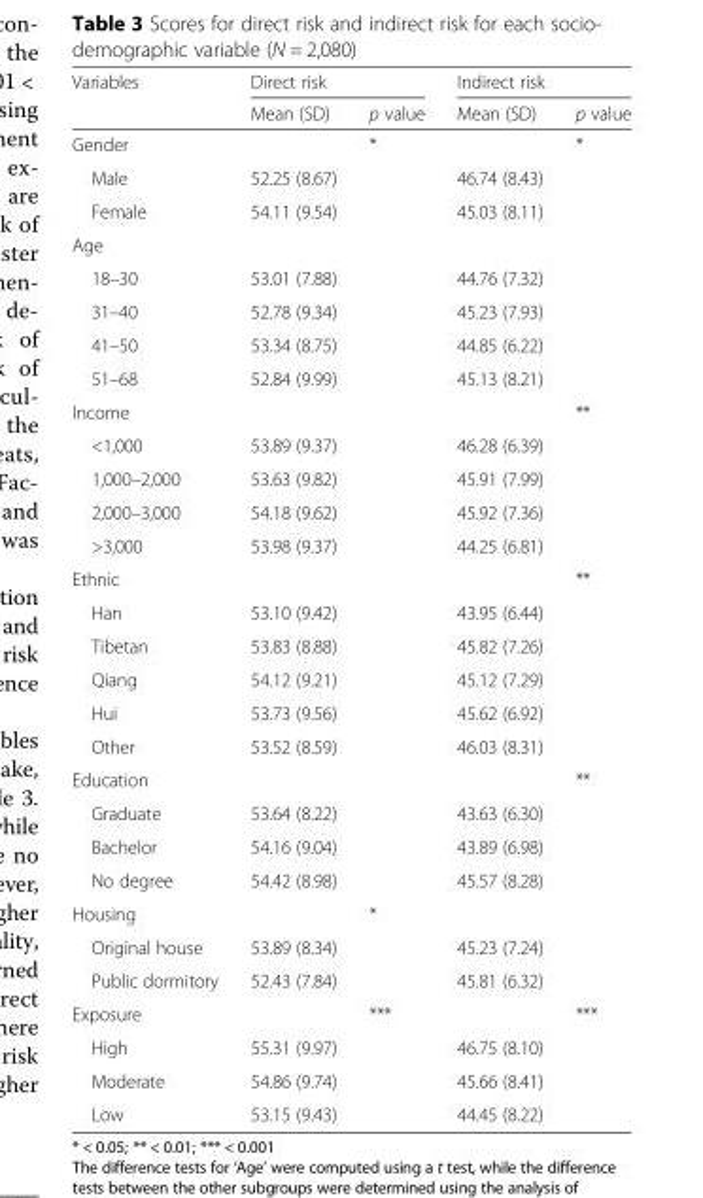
<table><thead><tr><td rowspan="2">Variables</td><td colspan="2">Direct risk</td><td colspan="2">Indirect risk</td></tr><tr><td>Mean (SD)</td><td>p value</td><td>Mean (SD)</td><td>p value</td></tr></thead><tbody><tr><td>Gender</td><td></td><td>*</td><td></td><td>*</td></tr><tr><td>Male</td><td>52.25 (8.67)</td><td></td><td>46.74 (8.43)</td><td></td></tr><tr><td>Female</td><td>54.11 (9.54)</td><td></td><td>45.03 (8.11)</td><td></td></tr><tr><td colspan="5">Age</td></tr><tr><td>18–30</td><td>53.01 (7.88)</td><td></td><td>44.76 (7.32)</td><td></td></tr><tr><td>31–40</td><td>52.78 (9.34)</td><td></td><td>45.23 (7.93)</td><td></td></tr><tr><td>41–50</td><td>53.34 (8.75)</td><td></td><td>44.85 (6.22)</td><td></td></tr><tr><td>51–68</td><td>52.84 (9.99)</td><td></td><td>45.13 (8.21)</td><td></td></tr><tr><td>Income</td><td></td><td></td><td></td><td>**</td></tr><tr><td>&lt;1,000</td><td>53.89 (9.37)</td><td></td><td>46.28 (6.39)</td><td></td></tr><tr><td>1,000–2,000</td><td>53.63 (9.82)</td><td></td><td>45.91 (7.99)</td><td></td></tr><tr><td>2,000–3,000</td><td>54.18 (9.62)</td><td></td><td>45.92 (7.36)</td><td></td></tr><tr><td>&gt;3,000</td><td>53.98 (9.37)</td><td></td><td>44.25 (6.81)</td><td></td></tr><tr><td>Ethnic</td><td></td><td></td><td></td><td>**</td></tr><tr><td>Han</td><td>53.10 (9.42)</td><td></td><td>43.95 (6.44)</td><td></td></tr><tr><td>Tibetan</td><td>53.83 (8.88)</td><td></td><td>45.82 (7.26)</td><td></td></tr><tr><td>Qiang</td><td>54.12 (9.21)</td><td></td><td>45.12 (7.29)</td><td></td></tr><tr><td>Hui</td><td>53.73 (9.56)</td><td></td><td>45.62 (6.92)</td><td></td></tr><tr><td>Other</td><td>53.52 (8.59)</td><td></td><td>46.03 (8.31)</td><td></td></tr><tr><td>Education</td><td></td><td></td><td></td><td>**</td></tr><tr><td>Graduate</td><td>53.64 (8.22)</td><td></td><td>43.63 (6.30)</td><td></td></tr><tr><td>Bachelor</td><td>54.16 (9.04)</td><td></td><td>43.89 (6.98)</td><td></td></tr><tr><td>No degree</td><td>54.42 (8.98)</td><td></td><td>45.57 (8.28)</td><td></td></tr><tr><td>Housing</td><td></td><td>*</td><td></td><td></td></tr><tr><td>Original house</td><td>53.89 (8.34)</td><td></td><td>45.23 (7.24)</td><td></td></tr><tr><td>Public dormitory</td><td>52.43 (7.84)</td><td></td><td>45.81 (6.32)</td><td></td></tr><tr><td>Exposure</td><td></td><td>***</td><td></td><td>***</td></tr><tr><td>High</td><td>55.31 (9.97)</td><td></td><td>46.75 (8.10)</td><td></td></tr><tr><td>Moderate</td><td>54.86 (9.74)</td><td></td><td>45.66 (8.41)</td><td></td></tr><tr><td>Low</td><td>53.15 (9.43)</td><td></td><td>44.45 (8.22)</td><td></td></tr></tbody></table>